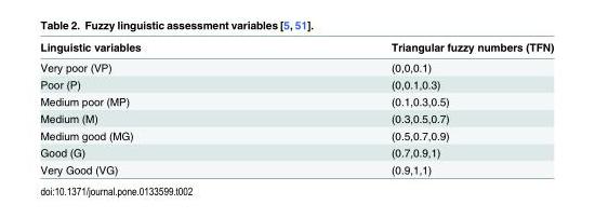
<table><thead><tr><td>Linguistic variables</td><td>Triangular fuzzy numbers (TFN)</td></tr></thead><tbody><tr><td>Very poor (VP)</td><td>(0,0,0.1)</td></tr><tr><td>Poor (P)</td><td>(0,0.1,0.3)</td></tr><tr><td>Medium poor (MP)</td><td>(0.1,0.3,0.5)</td></tr><tr><td>Medium (M)</td><td>(0.3,0.5,0.7)</td></tr><tr><td>Medium good (MG)</td><td>(0.5,0.7,0.9)</td></tr><tr><td>Good (G)</td><td>(0.7,0.9,1)</td></tr><tr><td>Very Good (VG)</td><td>(0.9,1,1)</td></tr></tbody></table>